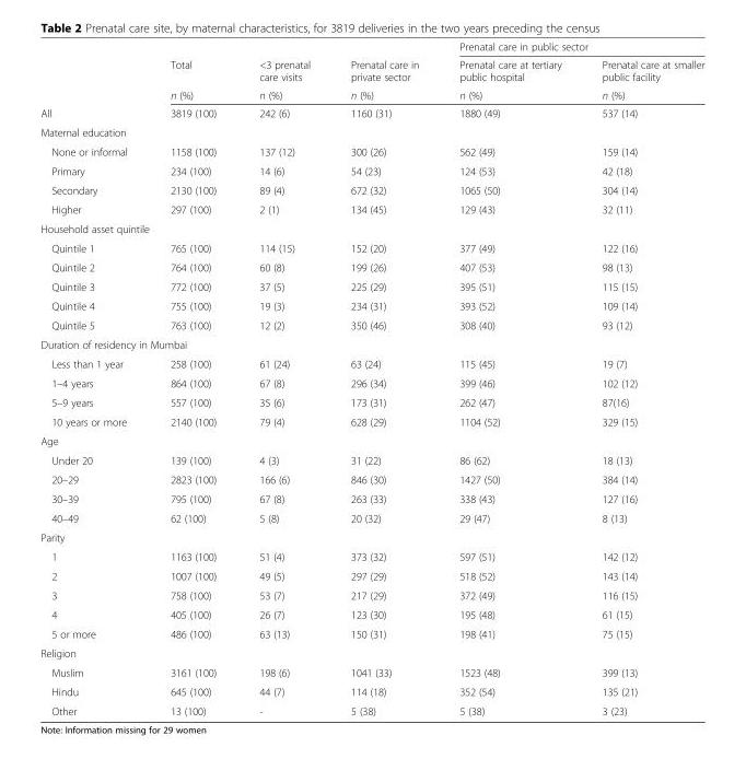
<table><thead><tr><td rowspan="3"></td><td rowspan="3">Total n (%)</td><td rowspan="3">&lt;3 prenatal care visits n (%)</td><td rowspan="3">Prenatal care in private sector n (%)</td><td colspan="2">Prenatal care in public sector</td></tr><tr><td rowspan="2">Prenatal care at tertiary public hospital n (%)</td><td rowspan="2">Prenatal care at smaller public facility n (%)</td></tr><tr></tr></thead><tbody><tr><td>All</td><td>3819 (100)</td><td>242 (6)</td><td>1160 (31)</td><td>1880 (49)</td><td>537 (14)</td></tr><tr><td colspan="6">Maternal education</td></tr><tr><td>None or informal</td><td>1158 (100)</td><td>137 (12)</td><td>300 (26)</td><td>562 (49)</td><td>159 (14)</td></tr><tr><td>Primary</td><td>234 (100)</td><td>14 (6)</td><td>54 (23)</td><td>124 (53)</td><td>42 (18)</td></tr><tr><td>Secondary</td><td>2130 (100)</td><td>89 (4)</td><td>672 (32)</td><td>1065 (50)</td><td>304 (14)</td></tr><tr><td>Higher</td><td>297 (100)</td><td>2 (1)</td><td>134 (45)</td><td>129 (43)</td><td>32 (11)</td></tr><tr><td colspan="6">Household asset quintile</td></tr><tr><td>Quintile 1</td><td>765 (100)</td><td>114 (15)</td><td>152 (20)</td><td>377 (49)</td><td>122 (16)</td></tr><tr><td>Quintile 2</td><td>764 (100)</td><td>60 (8)</td><td>199 (26)</td><td>407 (53)</td><td>98 (13)</td></tr><tr><td>Quintile 3</td><td>772 (100)</td><td>37 (5)</td><td>225 (29)</td><td>395 (51)</td><td>115 (15)</td></tr><tr><td>Quintile 4</td><td>755 (100)</td><td>19 (3)</td><td>234 (31)</td><td>393 (52)</td><td>109 (14)</td></tr><tr><td>Quintile 5</td><td>763 (100)</td><td>12 (2)</td><td>350 (46)</td><td>308 (40)</td><td>93 (12)</td></tr><tr><td colspan="6">Duration of residency in Mumbai</td></tr><tr><td>Less than 1 year</td><td>258 (100)</td><td>61 (24)</td><td>63 (24)</td><td>115 (45)</td><td>19 (7)</td></tr><tr><td>1–4 years</td><td>864 (100)</td><td>67 (8)</td><td>296 (34)</td><td>399 (46)</td><td>102 (12)</td></tr><tr><td>5–9 years</td><td>557 (100)</td><td>35 (6)</td><td>173 (31)</td><td>262 (47)</td><td>87(16)</td></tr><tr><td>10 years or more</td><td>2140 (100)</td><td>79 (4)</td><td>628 (29)</td><td>1104 (52)</td><td>329 (15)</td></tr><tr><td colspan="6">Age</td></tr><tr><td>Under 20</td><td>139 (100)</td><td>4 (3)</td><td>31 (22)</td><td>86 (62)</td><td>18 (13)</td></tr><tr><td>20–29</td><td>2823 (100)</td><td>166 (6)</td><td>846 (30)</td><td>1427 (50)</td><td>384 (14)</td></tr><tr><td>30–39</td><td>795 (100)</td><td>67 (8)</td><td>263 (33)</td><td>338 (43)</td><td>127 (16)</td></tr><tr><td>40–49</td><td>62 (100)</td><td>5 (8)</td><td>20 (32)</td><td>29 (47)</td><td>8 (13)</td></tr><tr><td colspan="6">Parity</td></tr><tr><td>1</td><td>1163 (100)</td><td>51 (4)</td><td>373 (32)</td><td>597 (51)</td><td>142 (12)</td></tr><tr><td>2</td><td>1007 (100)</td><td>49 (5)</td><td>297 (29)</td><td>518 (52)</td><td>143 (14)</td></tr><tr><td>3</td><td>758 (100)</td><td>53 (7)</td><td>217 (29)</td><td>372 (49)</td><td>116 (15)</td></tr><tr><td>4</td><td>405 (100)</td><td>26 (7)</td><td>123 (30)</td><td>195 (48)</td><td>61 (15)</td></tr><tr><td>5 or more</td><td>486 (100)</td><td>63 (13)</td><td>150 (31)</td><td>198 (41)</td><td>75 (15)</td></tr><tr><td colspan="6">Religion</td></tr><tr><td>Muslim</td><td>3161 (100)</td><td>198 (6)</td><td>1041 (33)</td><td>1523 (48)</td><td>399 (13)</td></tr><tr><td>Hindu</td><td>645 (100)</td><td>44 (7)</td><td>114 (18)</td><td>352 (54)</td><td>135 (21)</td></tr><tr><td>Other</td><td>13 (100)</td><td>-</td><td>5 (38)</td><td>5 (38)</td><td>3 (23)</td></tr></tbody></table>